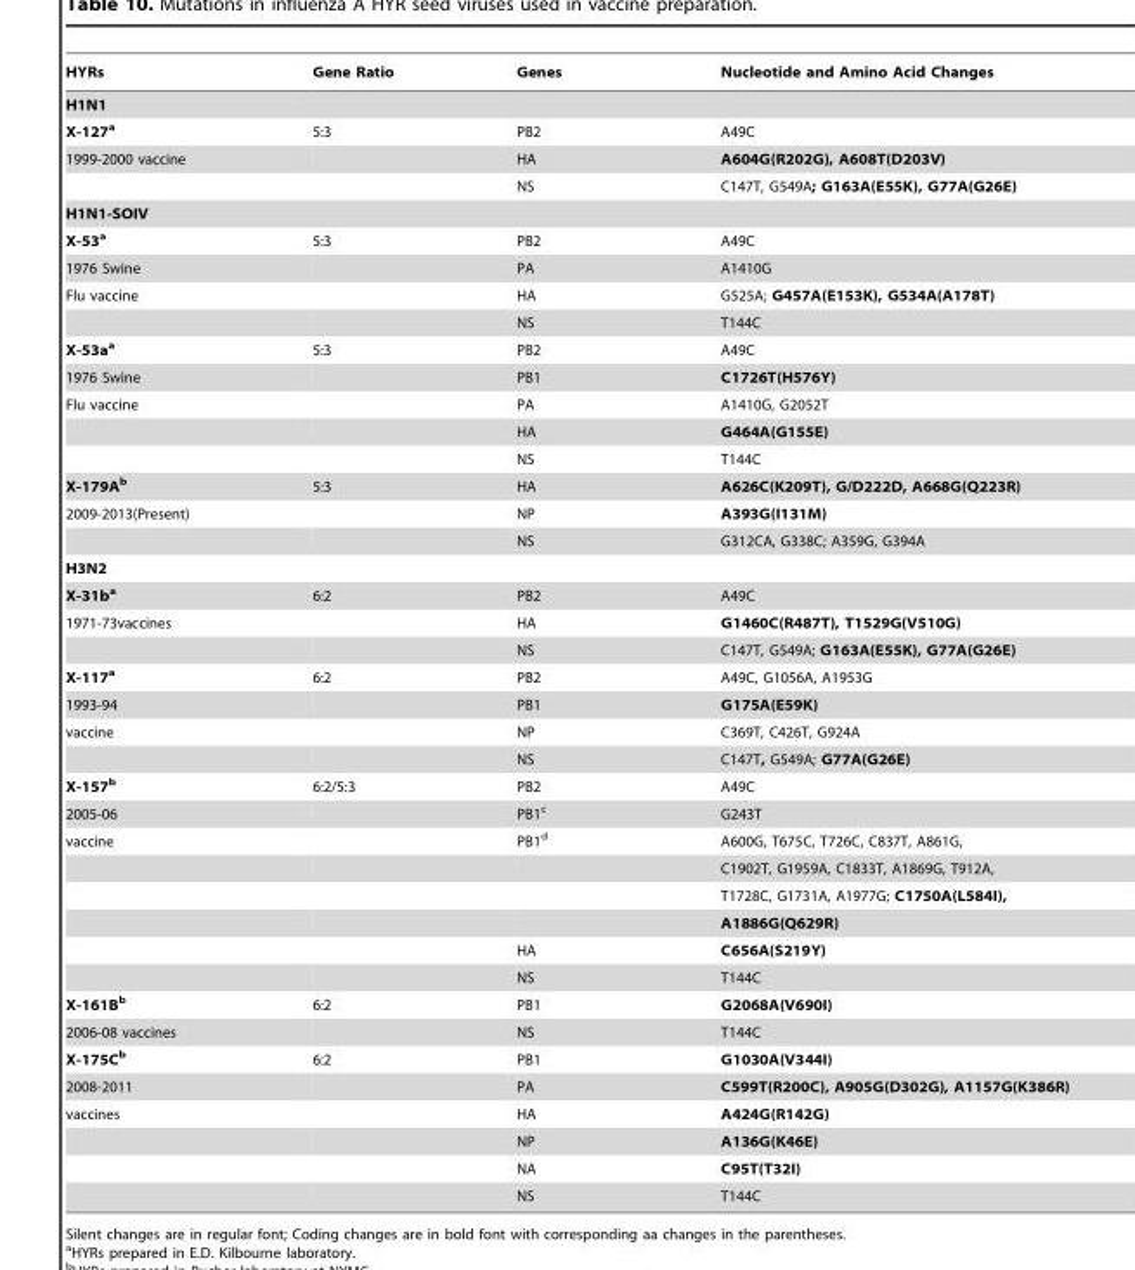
<table><thead><tr><td>HYRs</td><td>Gene Ratio</td><td>Genes</td><td>Nucleotide and Amino Acid Changes</td></tr></thead><tbody><tr><td colspan="4">H1N1</td></tr><tr><td>X-127a</td><td>5:3</td><td>PB2</td><td>A49C</td></tr><tr><td rowspan="2">1999-2000 vaccine</td><td></td><td>HA</td><td>A604G(R202G), A608T(D203V)</td></tr><tr><td></td><td>NS</td><td>C147T, G549A; G163A(E55K), G77A(G26E)</td></tr><tr><td colspan="4">H1N1-SOIV</td></tr><tr><td>X-53a</td><td>5:3</td><td>PB2</td><td>A49C</td></tr><tr><td>1976 Swine</td><td></td><td>PA</td><td>A1410G</td></tr><tr><td rowspan="2">Flu vaccine</td><td></td><td>HA</td><td>G525A; G457A(E153K), G534A(A178T)</td></tr><tr><td></td><td>NS</td><td>T144C</td></tr><tr><td>X-53aa</td><td>5:3</td><td>PB2</td><td>A49C</td></tr><tr><td>1976 Swine</td><td></td><td>PB1</td><td>C1726T(H576Y)</td></tr><tr><td rowspan="3">Flu vaccine</td><td></td><td>PA</td><td>A1410G, G2052T</td></tr><tr><td></td><td>HA</td><td>G464A(G155E)</td></tr><tr><td></td><td>NS</td><td>T144C</td></tr><tr><td>X-179Ab</td><td>5:3</td><td>HA</td><td>A626C(K209T), G/D222D, A668G(Q223R)</td></tr><tr><td rowspan="2">2009-2013(Present)</td><td></td><td>NP</td><td>A393G(I131M)</td></tr><tr><td></td><td>NS</td><td>G312CA, G338C; A359G, G394A</td></tr><tr><td colspan="4">H3N2</td></tr><tr><td>X-31ba</td><td>6:2</td><td>PB2</td><td>A49C</td></tr><tr><td rowspan="2">1971-73vaccines</td><td></td><td>HA</td><td>G1460C(R487T), T1529G(V510G)</td></tr><tr><td></td><td>NS</td><td>C147T, G549A; G163A(E55K), G77A(G26E)</td></tr><tr><td>X-117a</td><td>6:2</td><td>PB2</td><td>A49C, G1056A, A1953G</td></tr><tr><td>1993-94</td><td></td><td>PB1</td><td>G175A(E59K)</td></tr><tr><td rowspan="2">vaccine</td><td></td><td>NP</td><td>C369T, C426T, G924A</td></tr><tr><td></td><td>NS</td><td>C147T, G549A; G77A(G26E)</td></tr><tr><td>X-157b</td><td>6:2/5:3</td><td>PB2</td><td>A49C</td></tr><tr><td>2005-06</td><td></td><td>PB1<sup>c</sup></td><td>G243T</td></tr><tr><td rowspan="6">vaccine</td><td></td><td>PB1<sup>d</sup></td><td>A600G, T675C, T726C, C837T, A861G,</td></tr><tr><td></td><td></td><td>C1902T, G1959A, C1833T, A1869G, T912A,</td></tr><tr><td></td><td></td><td>T1728C, G1731A, A1977G; C1750A(L584I),</td></tr><tr><td></td><td></td><td>A1886G(Q629R)</td></tr><tr><td></td><td>HA</td><td>C656A(S219Y)</td></tr><tr><td></td><td>NS</td><td>T144C</td></tr><tr><td>X-161Bb</td><td>6:2</td><td>PB1</td><td>G2068A(V690I)</td></tr><tr><td>2006-08 vaccines</td><td></td><td>NS</td><td>T144C</td></tr><tr><td>X-175Cb</td><td>6:2</td><td>PB1</td><td>G1030A(V344I)</td></tr><tr><td>2008-2011</td><td></td><td>PA</td><td>C599T(R200C), A905G(D302G), A1157G(K386R)</td></tr><tr><td rowspan="4">vaccines</td><td></td><td>HA</td><td>A424G(R142G)</td></tr><tr><td></td><td>NP</td><td>A136G(K46E)</td></tr><tr><td></td><td>NA</td><td>C95T(T32I)</td></tr><tr><td></td><td>NS</td><td>T144C</td></tr></tbody></table>